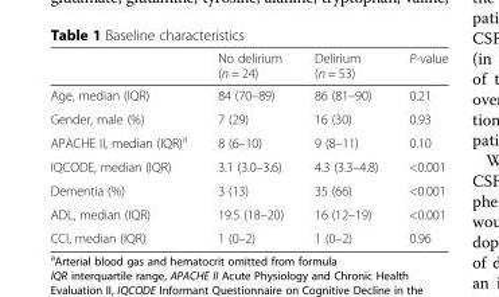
<table><thead><tr><td></td><td>No delirium (n = 24)</td><td>Delirium (n = 53)</td><td>P-value</td></tr></thead><tbody><tr><td>Age, median (IQR)</td><td>84 (70–89)</td><td>86 (81–90)</td><td>0.21</td></tr><tr><td>Gender, male (%)</td><td>7 (29)</td><td>16 (30)</td><td>0.93</td></tr><tr><td>APACHE II, median (IQR)<sup>a</sup></td><td>8 (6–10)</td><td>9 (8–11)</td><td>0.10</td></tr><tr><td>IQCODE, median (IQR)</td><td>3.1 (3.0–3.6)</td><td>4.3 (3.3–4.8)</td><td>&lt;0.001</td></tr><tr><td>Dementia (%)</td><td>3 (13)</td><td>35 (66)</td><td>&lt;0.001</td></tr><tr><td>ADL, median (IQR)</td><td>19.5 (18–20)</td><td>16 (12–19)</td><td>&lt;0.001</td></tr><tr><td>CCI, median (IQR)</td><td>1 (0–2)</td><td>1 (0–2)</td><td>0.96</td></tr></tbody></table>